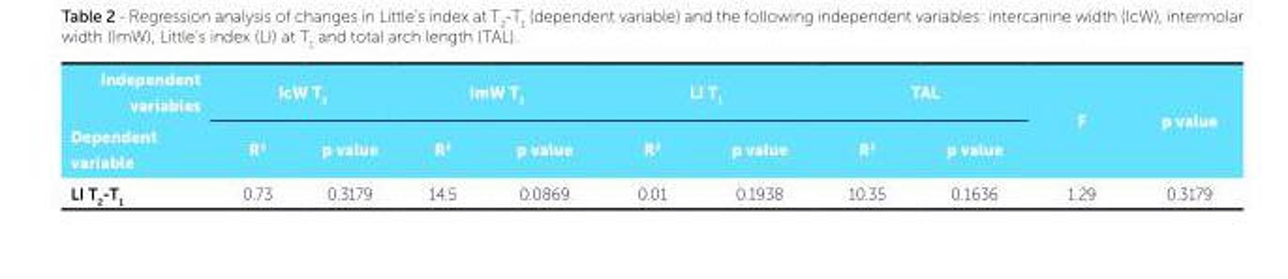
<table><thead><tr><td rowspan="2">Independent variables Dependent variable</td><td colspan="2">IcW T<sub>1</sub></td><td colspan="2">ImW T<sub>1</sub></td><td colspan="2">LI T<sub>1</sub></td><td colspan="2">TAL</td><td rowspan="2">F</td><td rowspan="2">p value</td></tr><tr><td>R<sup>2</sup></td><td>p value</td><td>R<sup>2</sup></td><td>p value</td><td>R<sup>2</sup></td><td>p value</td><td>R<sup>2</sup></td><td>p value</td></tr></thead><tbody><tr><td>LI T<sub>2</sub>-T<sub>1</sub></td><td>0.73</td><td>0.3179</td><td>14.5</td><td>0.0869</td><td>0.01</td><td>0.1938</td><td>10.35</td><td>0.1636</td><td>1.29</td><td>0.3179</td></tr></tbody></table>